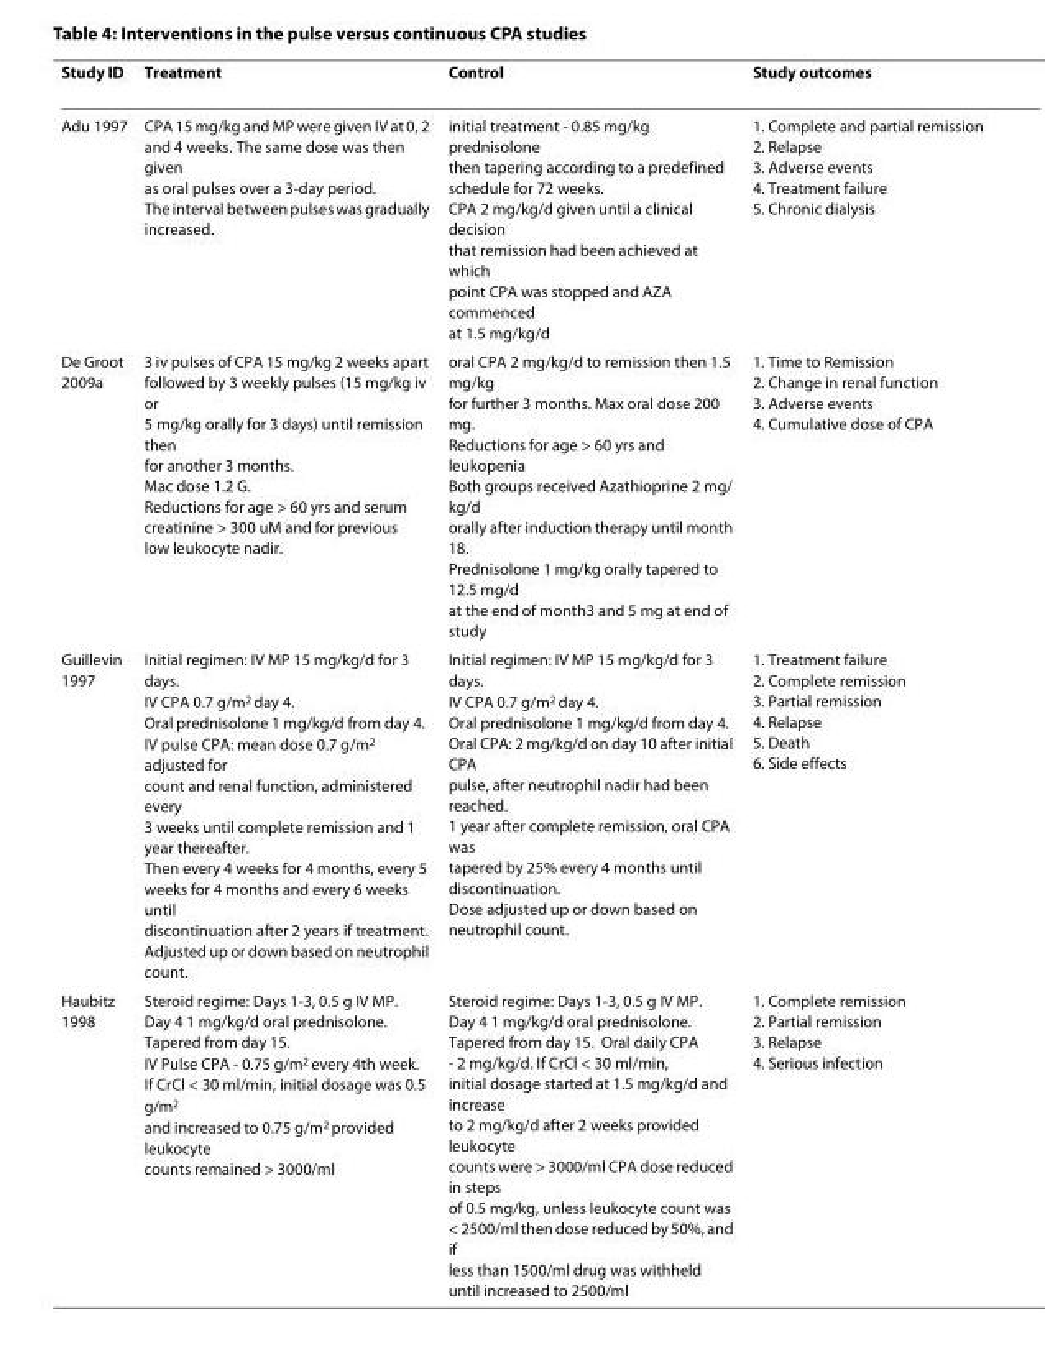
<table><thead><tr><td>Study ID</td><td>Treatment</td><td>Control</td><td>Study outcomes</td></tr></thead><tbody><tr><td>Adu 1997</td><td>CPA 15 mg/kg and MP were given IV at 0, 2 and 4 weeks. The same dose was then given as oral pulses over a 3-day period. The interval between pulses was gradually increased.</td><td>initial treatment - 0.85 mg/kg prednisolone then tapering according to a predefined schedule for 72 weeks. CPA 2 mg/kg/d given until a clinical decision that remission had been achieved at which point CPA was stopped and AZA commenced at 1.5 mg/kg/d</td><td>1. Complete and partial remission 2. Relapse 3. Adverse events 4. Treatment failure 5. Chronic dialysis</td></tr><tr><td>De Groot 2009a</td><td>3 iv pulses of CPA 15 mg/kg 2 weeks apart followed by 3 weekly pulses (15 mg/kg iv or 5 mg/kg orally for 3 days) until remission then for another 3 months. Mac dose 1.2 G. Reductions for age &gt; 60 yrs and serum creatinine &gt; 300 uM and for previous low leukocyte nadir.</td><td>oral CPA 2 mg/kg/d to remission then 1.5 mg/kg for further 3 months. Max oral dose 200 mg. Reductions for age &gt; 60 yrs and leukopenia Both groups received Azathioprine 2 mg/ kg/d orally after induction therapy until month 18. Prednisolone 1 mg/kg orally tapered to 12.5 mg/d at the end of month3 and 5 mg at end of study</td><td>1. Time to Remission 2. Change in renal function 3. Adverse events 4. Cumulative dose of CPA</td></tr><tr><td>Guillevin 1997</td><td>Initial regimen: IV MP 15 mg/kg/d for 3 days. IV CPA 0.7 g/m<sup>2</sup> day 4. Oral prednisolone 1 mg/kg/d from day 4. IV pulse CPA: mean dose 0.7 g/m<sup>2</sup> adjusted for count and renal function, administered every 3 weeks until complete remission and 1 year thereafter. Then every 4 weeks for 4 months, every 5 weeks for 4 months and every 6 weeks until discontinuation after 2 years if treatment. Adjusted up or down based on neutrophil count.</td><td>Initial regimen: IV MP 15 mg/kg/d for 3 days. IV CPA 0.7 g/m<sup>2</sup> day 4. Oral prednisolone 1 mg/kg/d from day 4. Oral CPA: 2 mg/kg/d on day 10 after initial CPA pulse, after neutrophil nadir had been reached. 1 year after complete remission, oral CPA was tapered by 25% every 4 months until discontinuation. Dose adjusted up or down based on neutrophil count.</td><td>1. Treatment failure 2. Complete remission 3. Partial remission 4. Relapse 5. Death 6. Side effects</td></tr><tr><td>Haubitz 1998</td><td>Steroid regime: Days 1-3, 0.5 g IV MP. Day 4 1 mg/kg/d oral prednisolone. Tapered from day 15. IV Pulse CPA - 0.75 g/m<sup>2</sup> every 4th week. If CrCl &lt; 30 ml/min, initial dosage was 0.5 g/m<sup>2</sup> and increased to 0.75 g/m<sup>2</sup> provided leukocyte counts remained &gt; 3000/ml</td><td>Steroid regime: Days 1-3, 0.5 g IV MP. Day 4 1 mg/kg/d oral prednisolone. Tapered from day 15. Oral daily CPA - 2 mg/kg/d. If CrCl &lt; 30 ml/min, initial dosage started at 1.5 mg/kg/d and increase to 2 mg/kg/d after 2 weeks provided leukocyte counts were &gt; 3000/ml CPA dose reduced in steps of 0.5 mg/kg, unless leukocyte count was &lt; 2500/ml then dose reduced by 50%, and if less than 1500/ml drug was withheld until increased to 2500/ml</td><td>1. Complete remission 2. Partial remission 3. Relapse 4. Serious infection</td></tr></tbody></table>